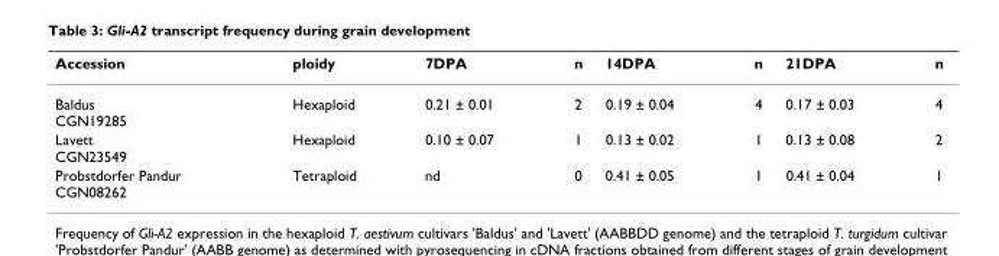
<table><thead><tr><td>Accession</td><td>ploidy</td><td>7DPA</td><td>n</td><td>14DPA</td><td>n</td><td>21DPA</td><td>n</td></tr></thead><tbody><tr><td>Baldus CGN19285</td><td>Hexaploid</td><td>0.21 ± 0.01</td><td>2</td><td>0.19 ± 0.04</td><td>4</td><td>0.17 ± 0.03</td><td>4</td></tr><tr><td>Lavett CGN23549</td><td>Hexaploid</td><td>0.10 ± 0.07</td><td>1</td><td>0.13 ± 0.02</td><td>1</td><td>0.13 ± 0.08</td><td>2</td></tr><tr><td>Probstdorfer Pandur CGN08262</td><td>Tetraploid</td><td>nd</td><td>0</td><td>0.41 ± 0.05</td><td>1</td><td>0.41 ± 0.04</td><td>1</td></tr></tbody></table>